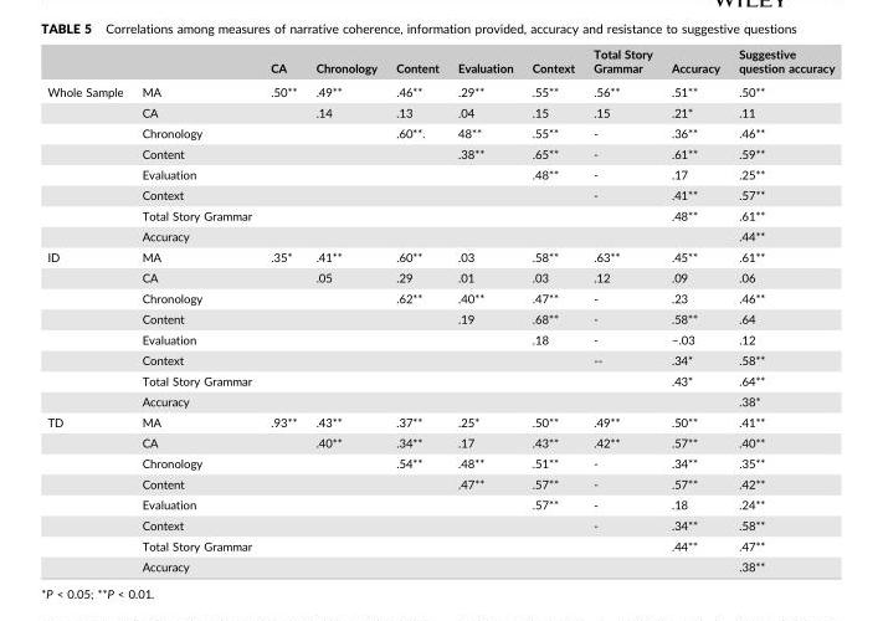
<table><thead><tr><td></td><td></td><td>CA</td><td>Chronology</td><td>Content</td><td>Evaluation</td><td>Context</td><td>Total Story Grammar</td><td>Accuracy</td><td>Suggestive question accuracy</td></tr></thead><tbody><tr><td rowspan="8">Whole Sample</td><td>MA</td><td>.50**</td><td>.49**</td><td>.46**</td><td>.29**</td><td>.55**</td><td>.56**</td><td>.51**</td><td>.50**</td></tr><tr><td>CA</td><td></td><td>.14</td><td>.13</td><td>.04</td><td>.15</td><td>.15</td><td>.21*</td><td>.11</td></tr><tr><td>Chronology</td><td></td><td></td><td>.60**.</td><td>48**</td><td>.55**</td><td>‐</td><td>.36**</td><td>.46**</td></tr><tr><td>Content</td><td></td><td></td><td></td><td>.38**</td><td>.65**</td><td>‐</td><td>.61**</td><td>.59**</td></tr><tr><td>Evaluation</td><td></td><td></td><td></td><td></td><td>.48**</td><td>‐</td><td>.17</td><td>.25**</td></tr><tr><td>Context</td><td></td><td></td><td></td><td></td><td></td><td>‐</td><td>.41**</td><td>.57**</td></tr><tr><td>Total Story Grammar</td><td></td><td></td><td></td><td></td><td></td><td></td><td>.48**</td><td>.61**</td></tr><tr><td>Accuracy</td><td></td><td></td><td></td><td></td><td></td><td></td><td></td><td>.44**</td></tr><tr><td rowspan="8">ID</td><td>MA</td><td>.35*</td><td>.41**</td><td>.60**</td><td>.03</td><td>.58**</td><td>.63**</td><td>.45**</td><td>.61**</td></tr><tr><td>CA</td><td></td><td>.05</td><td>.29</td><td>.01</td><td>.03</td><td>.12</td><td>.09</td><td>.06</td></tr><tr><td>Chronology</td><td></td><td></td><td>.62**</td><td>.40**</td><td>.47**</td><td>‐</td><td>.23</td><td>.46**</td></tr><tr><td>Content</td><td></td><td></td><td></td><td>.19</td><td>.68**</td><td>‐</td><td>.58**</td><td>.64</td></tr><tr><td>Evaluation</td><td></td><td></td><td></td><td></td><td>.18</td><td>‐</td><td>−.03</td><td>.12</td></tr><tr><td>Context</td><td></td><td></td><td></td><td></td><td></td><td>‐‐</td><td>.34*</td><td>.58**</td></tr><tr><td>Total Story Grammar</td><td></td><td></td><td></td><td></td><td></td><td></td><td>.43*</td><td>.64**</td></tr><tr><td>Accuracy</td><td></td><td></td><td></td><td></td><td></td><td></td><td></td><td>.38*</td></tr><tr><td rowspan="8">TD</td><td>MA</td><td>.93**</td><td>.43**</td><td>.37**</td><td>.25*</td><td>.50**</td><td>.49**</td><td>.50**</td><td>.41**</td></tr><tr><td>CA</td><td></td><td>.40**</td><td>.34**</td><td>.17</td><td>.43**</td><td>.42**</td><td>.57**</td><td>.40**</td></tr><tr><td>Chronology</td><td></td><td></td><td>.54**</td><td>.48**</td><td>.51**</td><td>‐</td><td>.34**</td><td>.35**</td></tr><tr><td>Content</td><td></td><td></td><td></td><td>.47**</td><td>.57**</td><td>‐</td><td>.57**</td><td>.42**</td></tr><tr><td>Evaluation</td><td></td><td></td><td></td><td></td><td>.57**</td><td>‐</td><td>.18</td><td>.24**</td></tr><tr><td>Context</td><td></td><td></td><td></td><td></td><td></td><td>‐</td><td>.34**</td><td>.58**</td></tr><tr><td>Total Story Grammar</td><td></td><td></td><td></td><td></td><td></td><td></td><td>.44**</td><td>.47**</td></tr><tr><td>Accuracy</td><td></td><td></td><td></td><td></td><td></td><td></td><td></td><td>.38**</td></tr></tbody></table>